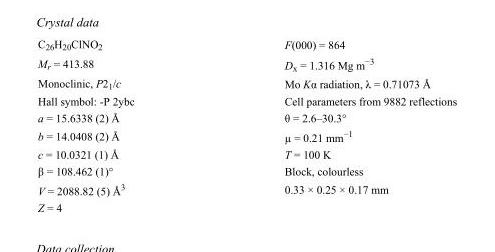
<table><tbody><tr><td>C<sub>26</sub>H<sub>20</sub>ClNO<sub>2</sub></td><td>F(000) = 864</td></tr><tr><td>M<sub>r</sub> = 413.88</td><td>D<sub>x</sub> = 1.316 Mg m<sup>−3</sup></td></tr><tr><td>Monoclinic, P2<sub>1</sub>/c</td><td>Mo Kα radiation, λ = 0.71073 Å</td></tr><tr><td>Hall symbol: -P 2ybc</td><td>Cell parameters from 9882 reflections</td></tr><tr><td>a = 15.6338 (2) Å</td><td>θ = 2.6–30.3°</td></tr><tr><td>b = 14.0408 (2) Å</td><td>µ = 0.21 mm<sup>−1</sup></td></tr><tr><td>c = 10.0321 (1) Å</td><td>T = 100 K</td></tr><tr><td>β = 108.462 (1)°</td><td>Block, colourless</td></tr><tr><td>V = 2088.82 (5) Å<sup>3</sup></td><td>0.33 × 0.25 × 0.17 mm</td></tr><tr><td>Z = 4</td><td></td></tr></tbody></table>